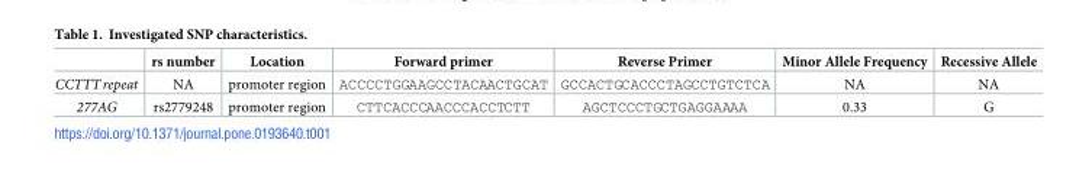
<table><thead><tr><td></td><td>rs number</td><td>Location</td><td>Forward primer</td><td>Reverse Primer</td><td>Minor Allele Frequency</td><td>Recessive Allele</td></tr></thead><tbody><tr><td>CCTTTrepeat</td><td>NA</td><td>promoter region</td><td>ACCCCTGGAAGCCTACAACTGCAT</td><td>GCCACTGCACCCTAGCCTGTCTCA</td><td>NA</td><td>NA</td></tr><tr><td>277AG</td><td>rs2779248</td><td>promoter region</td><td>CTTCACCCAACCCACCTCTT</td><td>AGCTCCCTGCTGAGGAAAA</td><td>0.33</td><td>G</td></tr></tbody></table>